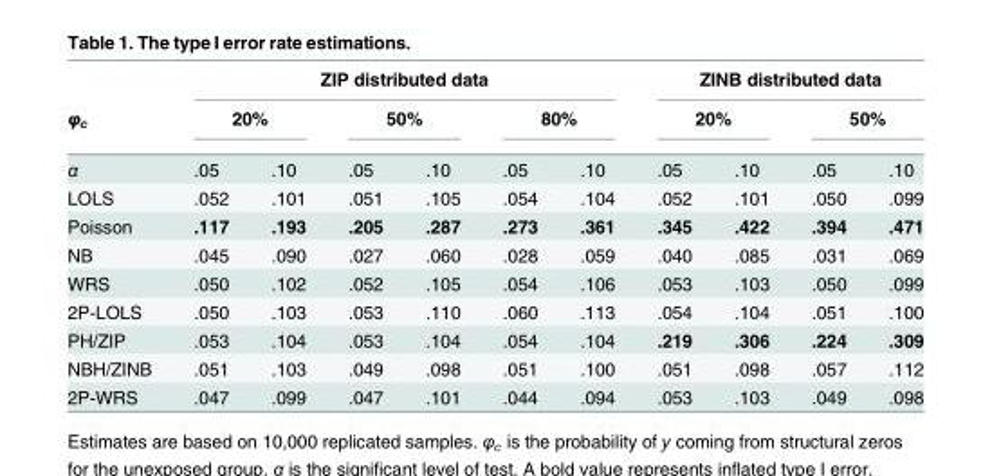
<table><thead><tr><td rowspan="3">φ<sub>c</sub> α</td><td colspan="6">ZIP distributed data</td><td colspan="4">ZINB distributed data</td></tr><tr><td colspan="2">20%</td><td colspan="2">50%</td><td colspan="2">80%</td><td colspan="2">20%</td><td colspan="2">50%</td></tr><tr><td>.05</td><td>.10</td><td>.05</td><td>.10</td><td>.05</td><td>.10</td><td>.05</td><td>.10</td><td>.05</td><td>.10</td></tr></thead><tbody><tr><td>LOLS</td><td>.052</td><td>.101</td><td>.051</td><td>.105</td><td>.054</td><td>.104</td><td>.052</td><td>.101</td><td>.050</td><td>.099</td></tr><tr><td>Poisson</td><td>.117</td><td>.193</td><td>.205</td><td>.287</td><td>.273</td><td>.361</td><td>.345</td><td>.422</td><td>.394</td><td>.471</td></tr><tr><td>NB</td><td>.045</td><td>.090</td><td>.027</td><td>.060</td><td>.028</td><td>.059</td><td>.040</td><td>.085</td><td>.031</td><td>.069</td></tr><tr><td>WRS</td><td>.050</td><td>.102</td><td>.052</td><td>.105</td><td>.054</td><td>.106</td><td>.053</td><td>.103</td><td>.050</td><td>.099</td></tr><tr><td>2P-LOLS</td><td>.050</td><td>.103</td><td>.053</td><td>.110</td><td>.060</td><td>.113</td><td>.054</td><td>.104</td><td>.051</td><td>.100</td></tr><tr><td>PH/ZIP</td><td>.053</td><td>.104</td><td>.053</td><td>.104</td><td>.054</td><td>.104</td><td>.219</td><td>.306</td><td>.224</td><td>.309</td></tr><tr><td>NBH/ZINB</td><td>.051</td><td>.103</td><td>.049</td><td>.098</td><td>.051</td><td>.100</td><td>.051</td><td>.098</td><td>.057</td><td>.112</td></tr><tr><td>2P-WRS</td><td>.047</td><td>.099</td><td>.047</td><td>.101</td><td>.044</td><td>.094</td><td>.053</td><td>.103</td><td>.049</td><td>.098</td></tr></tbody></table>